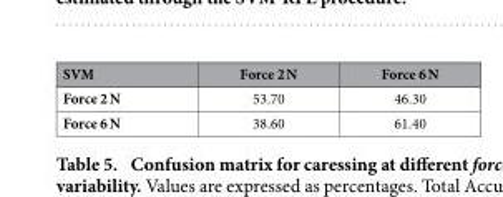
<table><thead><tr><td>SVM</td><td>Force 2 N</td><td>Force 6 N</td></tr></thead><tbody><tr><td>Force 2 N</td><td>53.70</td><td>46.30</td></tr><tr><td>Force 6 N</td><td>38.60</td><td>61.40</td></tr></tbody></table>